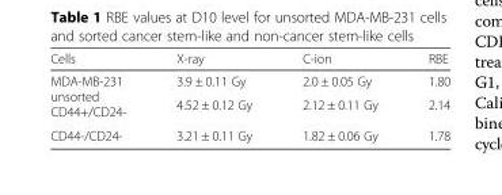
<table><thead><tr><td>Cells</td><td>X-ray</td><td>C-ion</td><td>RBE</td></tr></thead><tbody><tr><td rowspan="2">MDA-MB-231 unsorted CD44+/CD24-</td><td>3.9 ± 0.11 Gy</td><td>2.0 ± 0.05 Gy</td><td>1.80</td></tr><tr><td>4.52 ± 0.12 Gy</td><td>2.12 ± 0.11 Gy</td><td>2.14</td></tr><tr><td>CD44-/CD24-</td><td>3.21 ± 0.11 Gy</td><td>1.82 ± 0.06 Gy</td><td>1.78</td></tr></tbody></table>